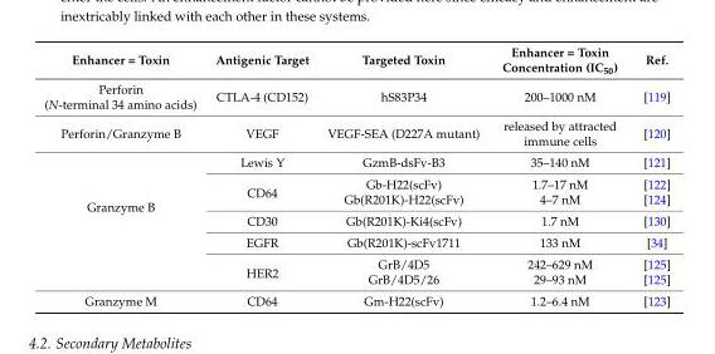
<table><thead><tr><td>Enhancer = Toxin</td><td>Antigenic Target</td><td>Targeted Toxin</td><td>Enhancer = Toxin Concentration (IC<sub>50</sub>)</td><td>Ref.</td></tr></thead><tbody><tr><td>Perforin (N-terminal 34 amino acids)</td><td>CTLA-4 (CD152)</td><td>hS83P34</td><td>200–1000 nM</td><td>[119]</td></tr><tr><td>Perforin/Granzyme B</td><td>VEGF</td><td>VEGF-SEA (D227A mutant)</td><td>released by attracted immune cells</td><td>[120]</td></tr><tr><td rowspan="7">Granzyme B</td><td>Lewis Y</td><td>GzmB-dsFv-B3</td><td>35–140 nM</td><td>[121]</td></tr><tr><td rowspan="2">CD64</td><td>Gb-H22(scFv)</td><td>1.7–17 nM</td><td>[122]</td></tr><tr><td>Gb(R201K)-H22(scFv)</td><td>4–7 nM</td><td>[124]</td></tr><tr><td>CD30</td><td>Gb(R201K)-Ki4(scFv)</td><td>1.7 nM</td><td>[130]</td></tr><tr><td>EGFR</td><td>Gb(R201K)-scFv1711</td><td>133 nM</td><td>[34]</td></tr><tr><td rowspan="2">HER2</td><td>GrB/4D5</td><td>242–629 nM</td><td>[125]</td></tr><tr><td>GrB/4D5/26</td><td>29–93 nM</td><td>[125]</td></tr><tr><td>Granzyme M</td><td>CD64</td><td>Gm-H22(scFv)</td><td>1.2–6.4 nM</td><td>[123]</td></tr></tbody></table>